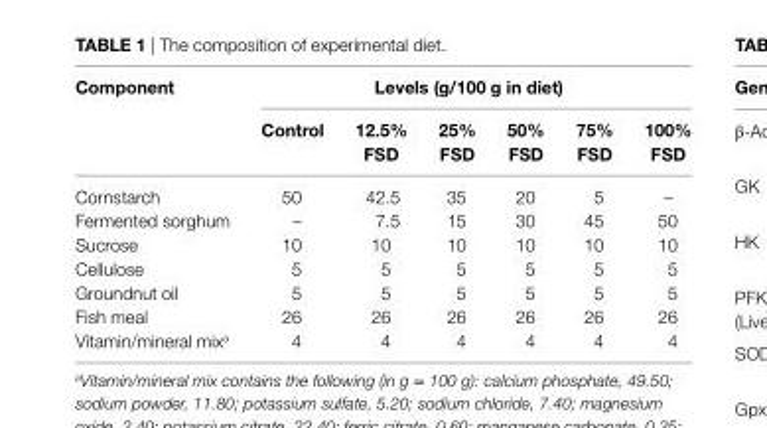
<table><thead><tr><td rowspan="2">component</td><td colspan="6">levels (g/100 g in diet)</td></tr><tr><td>control</td><td>12.5% FsD</td><td>25% FsD</td><td>50% FsD</td><td>75% FsD</td><td>100% FsD</td></tr></thead><tbody><tr><td>Cornstarch</td><td>50</td><td>42.5</td><td>35</td><td>20</td><td>5</td><td>–</td></tr><tr><td>Fermented sorghum</td><td>–</td><td>7.5</td><td>15</td><td>30</td><td>45</td><td>50</td></tr><tr><td>Sucrose</td><td>10</td><td>10</td><td>10</td><td>10</td><td>10</td><td>10</td></tr><tr><td>Cellulose</td><td>5</td><td>5</td><td>5</td><td>5</td><td>5</td><td>5</td></tr><tr><td>Groundnut oil</td><td>5</td><td>5</td><td>5</td><td>5</td><td>5</td><td>5</td></tr><tr><td>Fish meal</td><td>26</td><td>26</td><td>26</td><td>26</td><td>26</td><td>26</td></tr><tr><td>Vitamin/mineral mix<sup>a</sup></td><td>4</td><td>4</td><td>4</td><td>4</td><td>4</td><td>4</td></tr></tbody></table>